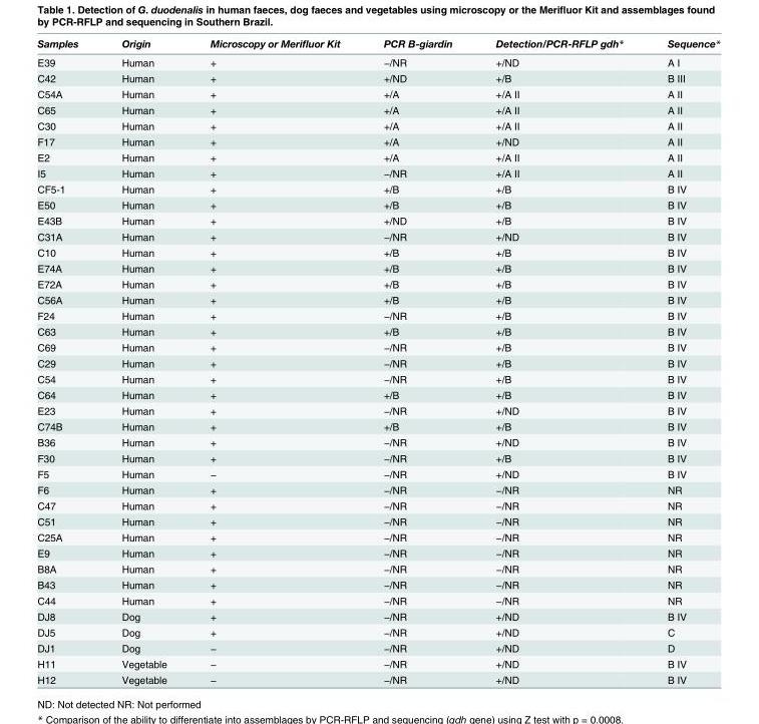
<table><thead><tr><td rowspan="2">Samples E39</td><td rowspan="2">Origin Human</td><td rowspan="2">Microscopy or Merifluor Kit +</td><td colspan="2">PCR B-giardin Detection/PCR-RFLP gdh*</td><td rowspan="2">Sequence* A I</td></tr><tr><td>−/NR</td><td>+/ND</td></tr></thead><tbody><tr><td>C42</td><td>Human</td><td>+</td><td>+/ND</td><td>+/B</td><td>B III</td></tr><tr><td>C54A</td><td>Human</td><td>+</td><td>+/A</td><td>+/A II</td><td>A II</td></tr><tr><td>C65</td><td>Human</td><td>+</td><td>+/A</td><td>+/A II</td><td>A II</td></tr><tr><td>C30</td><td>Human</td><td>+</td><td>+/A</td><td>+/A II</td><td>A II</td></tr><tr><td>F17</td><td>Human</td><td>+</td><td>+/A</td><td>+/ND</td><td>A II</td></tr><tr><td>E2</td><td>Human</td><td>+</td><td>+/A</td><td>+/A II</td><td>A II</td></tr><tr><td>I5</td><td>Human</td><td>+</td><td>−/NR</td><td>+/A II</td><td>A II</td></tr><tr><td>CF5-1</td><td>Human</td><td>+</td><td>+/B</td><td>+/B</td><td>B IV</td></tr><tr><td>E50</td><td>Human</td><td>+</td><td>+/B</td><td>+/B</td><td>B IV</td></tr><tr><td>E43B</td><td>Human</td><td>+</td><td>+/ND</td><td>+/B</td><td>B IV</td></tr><tr><td>C31A</td><td>Human</td><td>+</td><td>−/NR</td><td>+/ND</td><td>B IV</td></tr><tr><td>C10</td><td>Human</td><td>+</td><td>+/B</td><td>+/B</td><td>B IV</td></tr><tr><td>E74A</td><td>Human</td><td>+</td><td>+/B</td><td>+/B</td><td>B IV</td></tr><tr><td>E72A</td><td>Human</td><td>+</td><td>+/B</td><td>+/B</td><td>B IV</td></tr><tr><td>C56A</td><td>Human</td><td>+</td><td>+/B</td><td>+/B</td><td>B IV</td></tr><tr><td>F24</td><td>Human</td><td>+</td><td>−/NR</td><td>+/B</td><td>B IV</td></tr><tr><td>C63</td><td>Human</td><td>+</td><td>+/B</td><td>+/B</td><td>B IV</td></tr><tr><td>C69</td><td>Human</td><td>+</td><td>−/NR</td><td>+/B</td><td>B IV</td></tr><tr><td>C29</td><td>Human</td><td>+</td><td>−/NR</td><td>+/B</td><td>B IV</td></tr><tr><td>C54</td><td>Human</td><td>+</td><td>−/NR</td><td>+/B</td><td>B IV</td></tr><tr><td>C64</td><td>Human</td><td>+</td><td>+/B</td><td>+/B</td><td>B IV</td></tr><tr><td>E23</td><td>Human</td><td>+</td><td>−/NR</td><td>+/ND</td><td>B IV</td></tr><tr><td>C74B</td><td>Human</td><td>+</td><td>+/B</td><td>+/B</td><td>B IV</td></tr><tr><td>B36</td><td>Human</td><td>+</td><td>−/NR</td><td>+/ND</td><td>B IV</td></tr><tr><td>F30</td><td>Human</td><td>+</td><td>−/NR</td><td>+/B</td><td>B IV</td></tr><tr><td>F5</td><td>Human</td><td>−</td><td>−/NR</td><td>+/ND</td><td>B IV</td></tr><tr><td>F6</td><td>Human</td><td>+</td><td>−/NR</td><td>−/NR</td><td>NR</td></tr><tr><td>C47</td><td>Human</td><td>+</td><td>−/NR</td><td>−/NR</td><td>NR</td></tr><tr><td>C51</td><td>Human</td><td>+</td><td>−/NR</td><td>−/NR</td><td>NR</td></tr><tr><td>C25A</td><td>Human</td><td>+</td><td>−/NR</td><td>−/NR</td><td>NR</td></tr><tr><td>E9</td><td>Human</td><td>+</td><td>−/NR</td><td>−/NR</td><td>NR</td></tr><tr><td>B8A</td><td>Human</td><td>+</td><td>−/NR</td><td>−/NR</td><td>NR</td></tr><tr><td>B43</td><td>Human</td><td>+</td><td>−/NR</td><td>−/NR</td><td>NR</td></tr><tr><td>C44</td><td>Human</td><td>+</td><td>−/NR</td><td>−/NR</td><td>NR</td></tr><tr><td>DJ8</td><td>Dog</td><td>+</td><td>−/NR</td><td>+/ND</td><td>B IV</td></tr><tr><td>DJ5</td><td>Dog</td><td>+</td><td>−/NR</td><td>+/ND</td><td>C</td></tr><tr><td>DJ1</td><td>Dog</td><td>−</td><td>−/NR</td><td>+/ND</td><td>D</td></tr><tr><td>H11</td><td>Vegetable</td><td>−</td><td>−/NR</td><td>+/ND</td><td>B IV</td></tr><tr><td>H12</td><td>Vegetable</td><td>−</td><td>−/NR</td><td>+/ND</td><td>B IV</td></tr></tbody></table>